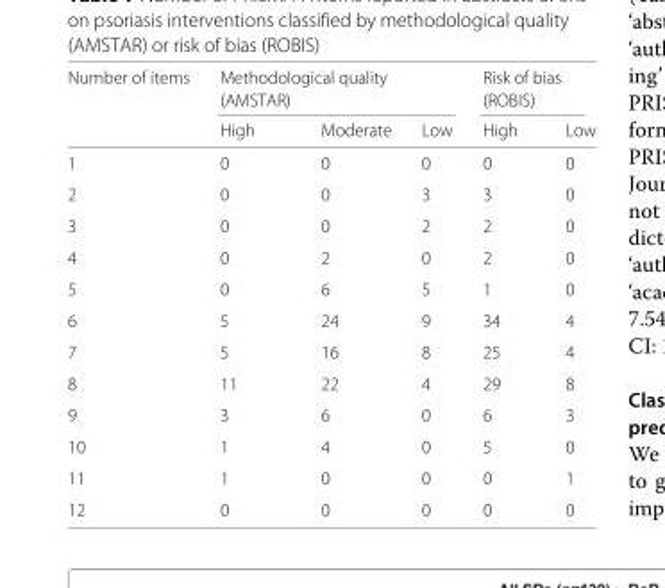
<table><thead><tr><td rowspan="3">Number of items</td><td colspan="3">Methodological quality</td><td colspan="2">Risk of bias</td></tr><tr><td rowspan="2">(AMSTAR) High</td><td rowspan="2">Moderate</td><td rowspan="2">Low</td><td rowspan="2">(ROBIS) High</td><td rowspan="2">Low</td></tr><tr></tr></thead><tbody><tr><td>1</td><td>0</td><td>0</td><td>0</td><td>0</td><td>0</td></tr><tr><td>2</td><td>0</td><td>0</td><td>3</td><td>3</td><td>0</td></tr><tr><td>3</td><td>0</td><td>0</td><td>2</td><td>2</td><td>0</td></tr><tr><td>4</td><td>0</td><td>2</td><td>0</td><td>2</td><td>0</td></tr><tr><td>5</td><td>0</td><td>6</td><td>5</td><td>1</td><td>0</td></tr><tr><td>6</td><td>5</td><td>24</td><td>9</td><td>34</td><td>4</td></tr><tr><td>7</td><td>5</td><td>16</td><td>8</td><td>25</td><td>4</td></tr><tr><td>8</td><td>11</td><td>22</td><td>4</td><td>29</td><td>8</td></tr><tr><td>9</td><td>3</td><td>6</td><td>0</td><td>6</td><td>3</td></tr><tr><td>10</td><td>1</td><td>4</td><td>0</td><td>5</td><td>0</td></tr><tr><td>11</td><td>1</td><td>0</td><td>0</td><td>0</td><td>1</td></tr><tr><td>12</td><td>0</td><td>0</td><td>0</td><td>0</td><td>0</td></tr></tbody></table>